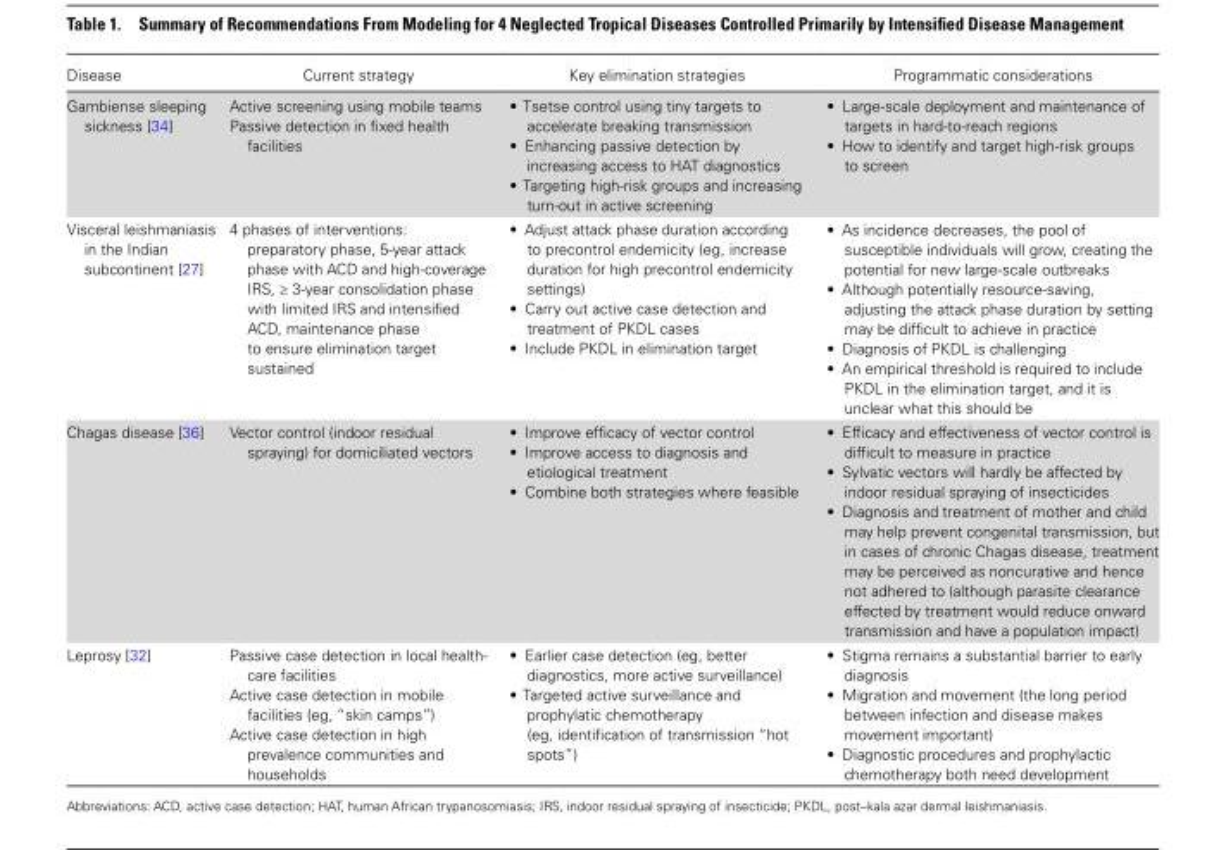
<table><thead><tr><td>Disease</td><td>Current strategy</td><td>Key elimination strategies</td><td>Programmatic considerations</td></tr></thead><tbody><tr><td>Gambiense sleeping sickness [34]</td><td>Active screening using mobile teams Passive detection in fixed health facilities</td><td>• Tsetse control using tiny targets to accelerate breaking transmission • Enhancing passive detection by increasing access to HAT diagnostics • Targeting high-risk groups and increasing turn-out in active screening</td><td>• Large-scale deployment and maintenance of targets in hard-to-reach regions • How to identify and target high-risk groups to screen</td></tr><tr><td>Visceral leishmaniasis in the Indian subcontinent [27]</td><td>4 phases of interventions: preparatory phase, 5-year attack phase with ACD and high-coverage IRS, ≥ 3-year consolidation phase with limited IRS and intensified ACD, maintenance phase to ensure elimination target sustained</td><td>• Adjust attack phase duration according to precontrol endemicity (eg, increase duration for high precontrol endemicity settings) • Carry out active case detection and treatment of PKDL cases • Include PKDL in elimination target</td><td>• As incidence decreases, the pool of susceptible individuals will grow, creating the potential for new large-scale outbreaks • Although potentially resource-saving, adjusting the attack phase duration by setting may be difficult to achieve in practice • Diagnosis of PKDL is challenging • An empirical threshold is required to include PKDL in the elimination target, and it is unclear what this should be</td></tr><tr><td>Chagas disease [36]</td><td>Vector control (indoor residual spraying) for domiciliated vectors</td><td>• Improve efficacy of vector control • Improve access to diagnosis and etiological treatment • Combine both strategies where feasible</td><td>• Efficacy and effectiveness of vector control is difficult to measure in practice • Sylvatic vectors will hardly be affected by indoor residual spraying of insecticides • Diagnosis and treatment of mother and child may help prevent congenital transmission, but in cases of chronic Chagas disease, treatment may be perceived as noncurative and hence not adhered to (although parasite clearance effected by treatment would reduce onward transmission and have a population impact)</td></tr><tr><td>Leprosy [32]</td><td>Passive case detection in local health- care facilities Active case detection in mobile facilities (eg, “skin camps”) Active case detection in high prevalence communities and households</td><td>• Earlier case detection (eg, better diagnostics, more active surveillance) • Targeted active surveillance and prophylatic chemotherapy (eg, identification of transmission “hot spots”)</td><td>• Stigma remains a substantial barrier to early diagnosis • Migration and movement (the long period between infection and disease makes movement important) • Diagnostic procedures and prophylactic chemotherapy both need development</td></tr></tbody></table>